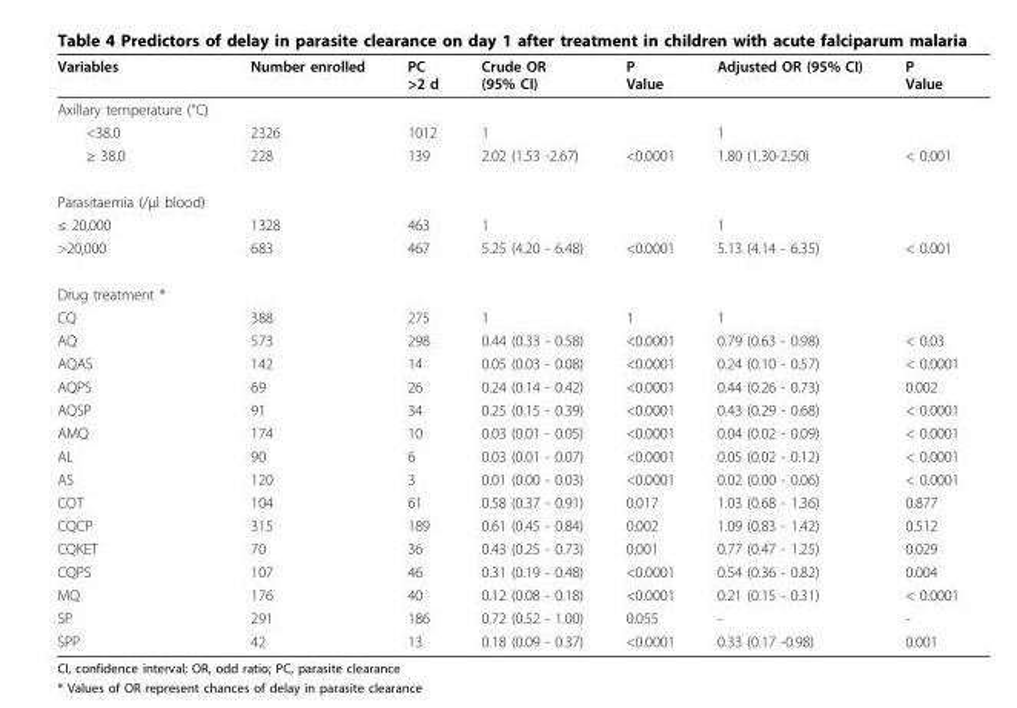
<table><thead><tr><td>Variables</td><td>Number enrolled</td><td>PC &gt;2 d</td><td>Crude OR (95% CI)</td><td>P Value</td><td>Adjusted OR (95% CI)</td><td>P Value</td></tr></thead><tbody><tr><td colspan="7">Axillary temperature (°C)</td></tr><tr><td>&lt;38.0</td><td>2326</td><td>1012</td><td>1</td><td></td><td>1</td><td></td></tr><tr><td>≥ 38.0</td><td>228</td><td>139</td><td>2.02 (1.53 -2.67)</td><td>&lt;0.0001</td><td>1.80 (1.30-2.50)</td><td>&lt; 0.001</td></tr><tr><td colspan="7">Parasitaemia (/μl blood)</td></tr><tr><td>≤ 20,000</td><td>1328</td><td>463</td><td>1</td><td></td><td>1</td><td></td></tr><tr><td>&gt;20,000</td><td>683</td><td>467</td><td>5.25 (4.20 - 6.48)</td><td>&lt;0.0001</td><td>5.13 (4.14 - 6.35)</td><td>&lt; 0.001</td></tr><tr><td colspan="7">Drug treatment *</td></tr><tr><td>CQ</td><td>388</td><td>275</td><td>1</td><td>1</td><td>1</td><td></td></tr><tr><td>AQ</td><td>573</td><td>298</td><td>0.44 (0.33 - 0.58)</td><td>&lt;0.0001</td><td>0.79 (0.63 - 0.98)</td><td>&lt; 0.03</td></tr><tr><td>AQAS</td><td>142</td><td>14</td><td>0.05 (0.03 - 0.08)</td><td>&lt;0.0001</td><td>0.24 (0.10 - 0.57)</td><td>&lt; 0.0001</td></tr><tr><td>AQPS</td><td>69</td><td>26</td><td>0.24 (0.14 - 0.42)</td><td>&lt;0.0001</td><td>0.44 (0.26 - 0.73)</td><td>0.002</td></tr><tr><td>AQSP</td><td>91</td><td>34</td><td>0.25 (0.15 - 0.39)</td><td>&lt;0.0001</td><td>0.43 (0.29 - 0.68)</td><td>&lt; 0.0001</td></tr><tr><td>AMQ</td><td>174</td><td>10</td><td>0.03 (0.01 - 0.05)</td><td>&lt;0.0001</td><td>0.04 (0.02 - 0.09)</td><td>&lt; 0.0001</td></tr><tr><td>AL</td><td>90</td><td>6</td><td>0.03 (0.01 - 0.07)</td><td>&lt;0.0001</td><td>0.05 (0.02 - 0.12)</td><td>&lt; 0.0001</td></tr><tr><td>AS</td><td>120</td><td>3</td><td>0.01 (0.00 - 0.03)</td><td>&lt;0.0001</td><td>0.02 (0.00 - 0.06)</td><td>&lt; 0.0001</td></tr><tr><td>COT</td><td>104</td><td>61</td><td>0.58 (0.37 - 0.91)</td><td>0.017</td><td>1.03 (0.68 - 1.36)</td><td>0.877</td></tr><tr><td>CQCP</td><td>315</td><td>189</td><td>0.61 (0.45 - 0.84)</td><td>0.002</td><td>1.09 (0.83 - 1.42)</td><td>0.512</td></tr><tr><td>CQKET</td><td>70</td><td>36</td><td>0.43 (0.25 - 0.73)</td><td>0.001</td><td>0.77 (0.47 - 1.25)</td><td>0.029</td></tr><tr><td>CQPS</td><td>107</td><td>46</td><td>0.31 (0.19 - 0.48)</td><td>&lt;0.0001</td><td>0.54 (0.36 - 0.82)</td><td>0.004</td></tr><tr><td>MQ</td><td>176</td><td>40</td><td>0.12 (0.08 - 0.18)</td><td>&lt;0.0001</td><td>0.21 (0.15 - 0.31)</td><td>&lt; 0.0001</td></tr><tr><td>SP</td><td>291</td><td>186</td><td>0.72 (0.52 - 1.00)</td><td>0.055</td><td>-</td><td>-</td></tr><tr><td>SPP</td><td>42</td><td>13</td><td>0.18 (0.09 - 0.37)</td><td>&lt;0.0001</td><td>0.33 (0.17 -0.98)</td><td>0.001</td></tr></tbody></table>